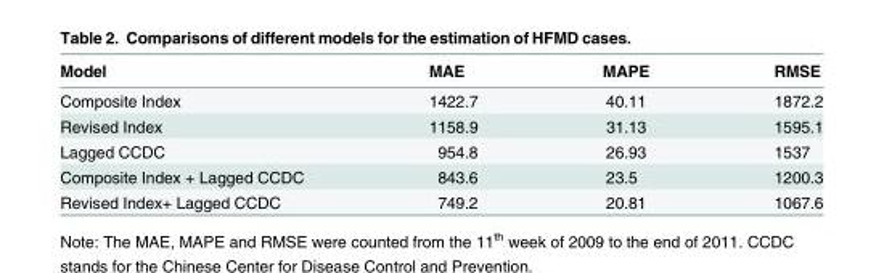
<table><thead><tr><td>Model</td><td>MAE</td><td>MAPE</td><td>RMSE</td></tr></thead><tbody><tr><td>Composite Index</td><td>1422.7</td><td>40.11</td><td>1872.2</td></tr><tr><td>Revised Index</td><td>1158.9</td><td>31.13</td><td>1595.1</td></tr><tr><td>Lagged CCDC</td><td>954.8</td><td>26.93</td><td>1537</td></tr><tr><td>Composite Index + Lagged CCDC</td><td>843.6</td><td>23.5</td><td>1200.3</td></tr><tr><td>Revised Index+ Lagged CCDC</td><td>749.2</td><td>20.81</td><td>1067.6</td></tr></tbody></table>